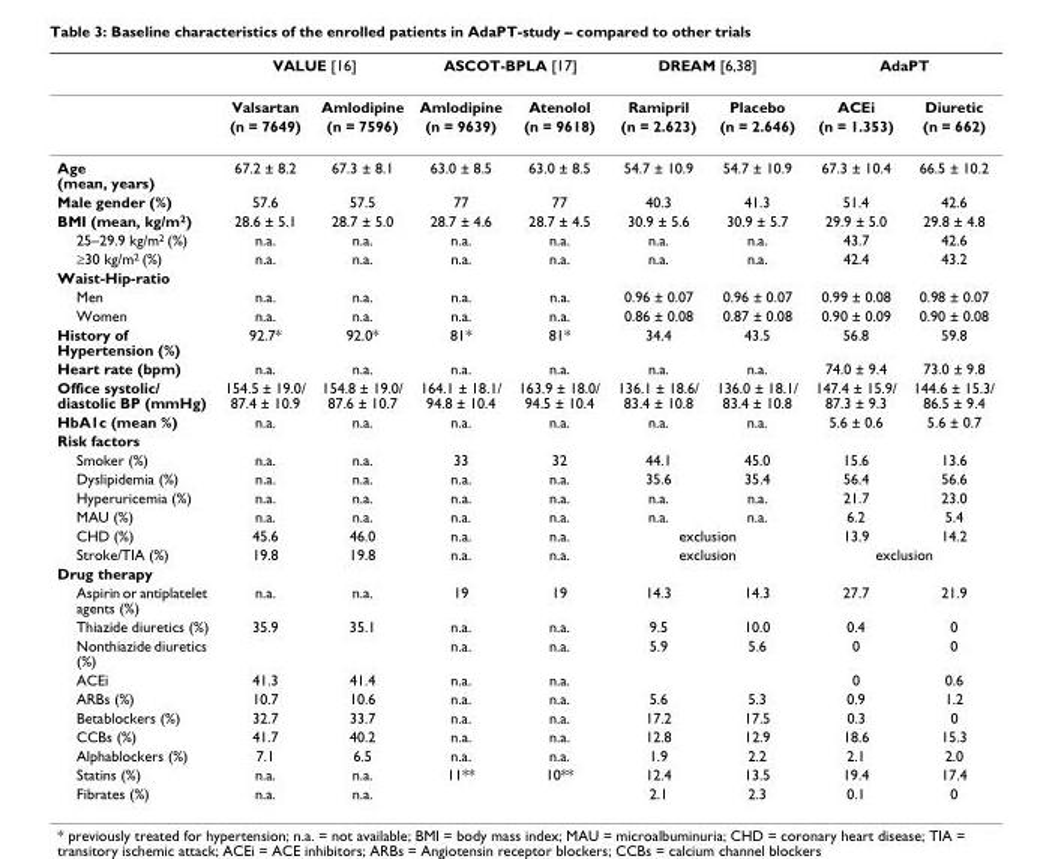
<table><thead><tr><td rowspan="2"></td><td colspan="2">VALUE [16]</td><td colspan="2">ASCOT-BPLA [17]</td><td colspan="2">DREAM [6,38]</td><td colspan="2">AdaPT</td></tr><tr><td>Valsartan</td><td>Amlodipine</td><td>Amlodipine</td><td>Atenolol</td><td>Ramipril</td><td>Placebo</td><td>ACEi</td><td>Diuretic</td></tr></thead><tbody><tr><td></td><td>(n = 7649)</td><td>(n = 7596)</td><td>(n = 9639)</td><td>(n = 9618)</td><td>(n = 2.623)</td><td>(n = 2.646)</td><td>(n = 1.353)</td><td>(n = 662)</td></tr><tr><td>Age (mean, years)</td><td>67.2 ± 8.2</td><td>67.3 ± 8.1</td><td>63.0 ± 8.5</td><td>63.0 ± 8.5</td><td>54.7 ± 10.9</td><td>54.7 ± 10.9</td><td>67.3 ± 10.4</td><td>66.5 ± 10.2</td></tr><tr><td>Male gender (%)</td><td>57.6</td><td>57.5</td><td>77</td><td>77</td><td>40.3</td><td>41.3</td><td>51.4</td><td>42.6</td></tr><tr><td>BMI (mean, kg/m<sup>2</sup>)</td><td>28.6 ± 5.1</td><td>28.7 ± 5.0</td><td>28.7 ± 4.6</td><td>28.7 ± 4.5</td><td>30.9 ± 5.6</td><td>30.9 ± 5.7</td><td>29.9 ± 5.0</td><td>29.8 ± 4.8</td></tr><tr><td>25–29.9 kg/m<sup>2</sup> (%)</td><td>n.a.</td><td>n.a.</td><td>n.a.</td><td>n.a.</td><td>n.a.</td><td>n.a.</td><td>43.7</td><td>42.6</td></tr><tr><td>≥30 kg/m<sup>2</sup> (%)</td><td>n.a.</td><td>n.a.</td><td>n.a.</td><td>n.a.</td><td>n.a.</td><td>n.a.</td><td>42.4</td><td>43.2</td></tr><tr><td colspan="9">Waist-Hip-ratio</td></tr><tr><td>Men</td><td>n.a.</td><td>n.a.</td><td>n.a.</td><td>n.a.</td><td>0.96 ± 0.07</td><td>0.96 ± 0.07</td><td>0.99 ± 0.08</td><td>0.98 ± 0.07</td></tr><tr><td>Women</td><td>n.a.</td><td>n.a.</td><td>n.a.</td><td>n.a.</td><td>0.86 ± 0.08</td><td>0.87 ± 0.08</td><td>0.90 ± 0.09</td><td>0.90 ± 0.08</td></tr><tr><td>History of Hypertension (%)</td><td>92.7*</td><td>92.0*</td><td>81*</td><td>81*</td><td>34.4</td><td>43.5</td><td>56.8</td><td>59.8</td></tr><tr><td>Heart rate (bpm)</td><td>n.a.</td><td>n.a.</td><td>n.a.</td><td>n.a.</td><td>n.a.</td><td>n.a.</td><td>74.0 ± 9.4</td><td>73.0 ± 9.8</td></tr><tr><td>Office systolic/ diastolic BP (mmHg)</td><td>154.5 ± 19.0/ 87.4 ± 10.9</td><td>154.8 ± 19.0/ 87.6 ± 10.7</td><td>164.1 ± 18.1/ 94.8 ± 10.4</td><td>163.9 ± 18.0/ 94.5 ± 10.4</td><td>136.1 ± 18.6/ 83.4 ± 10.8</td><td>136.0 ± 18.1/ 83.4 ± 10.8</td><td>147.4 ± 15.9/ 87.3 ± 9.3</td><td>144.6 ± 15.3/ 86.5 ± 9.4</td></tr><tr><td>HbA1c (mean %)</td><td>n.a.</td><td>n.a.</td><td>n.a.</td><td>n.a.</td><td>n.a.</td><td>n.a.</td><td>5.6 ± 0.6</td><td>5.6 ± 0.7</td></tr><tr><td colspan="9">Risk factors</td></tr><tr><td>Smoker (%)</td><td>n.a.</td><td>n.a.</td><td>33</td><td>32</td><td>44.1</td><td>45.0</td><td>15.6</td><td>13.6</td></tr><tr><td>Dyslipidemia (%)</td><td>n.a.</td><td>n.a.</td><td>n.a.</td><td>n.a.</td><td>35.6</td><td>35.4</td><td>56.4</td><td>56.6</td></tr><tr><td>Hyperuricemia (%)</td><td>n.a.</td><td>n.a.</td><td>n.a.</td><td>n.a.</td><td>n.a.</td><td>n.a.</td><td>21.7</td><td>23.0</td></tr><tr><td>MAU (%)</td><td>n.a.</td><td>n.a.</td><td>n.a.</td><td>n.a.</td><td>n.a.</td><td>n.a.</td><td>6.2</td><td>5.4</td></tr><tr><td>CHD (%)</td><td>45.6</td><td>46.0</td><td>n.a.</td><td>n.a.</td><td colspan="2">exclusion</td><td>13.9</td><td>14.2</td></tr><tr><td>Stroke/TIA (%)</td><td>19.8</td><td>19.8</td><td>n.a.</td><td>n.a.</td><td colspan="2">exclusion</td><td colspan="2">exclusion</td></tr><tr><td colspan="9">Drug therapy</td></tr><tr><td>Aspirin or antiplatelet agents (%)</td><td>n.a.</td><td>n.a.</td><td>19</td><td>19</td><td>14.3</td><td>14.3</td><td>27.7</td><td>21.9</td></tr><tr><td>Thiazide diuretics (%)</td><td>35.9</td><td>35.1</td><td>n.a.</td><td>n.a.</td><td>9.5</td><td>10.0</td><td>0.4</td><td>0</td></tr><tr><td>Nonthiazide diuretics (%)</td><td></td><td></td><td>n.a.</td><td>n.a.</td><td>5.9</td><td>5.6</td><td>0</td><td>0</td></tr><tr><td>ACEi</td><td>41.3</td><td>41.4</td><td>n.a.</td><td>n.a.</td><td></td><td></td><td>0</td><td>0.6</td></tr><tr><td>ARBs (%)</td><td>10.7</td><td>10.6</td><td>n.a.</td><td>n.a.</td><td>5.6</td><td>5.3</td><td>0.9</td><td>1.2</td></tr><tr><td>Betablockers (%)</td><td>32.7</td><td>33.7</td><td>n.a.</td><td>n.a.</td><td>17.2</td><td>17.5</td><td>0.3</td><td>0</td></tr><tr><td>CCBs (%)</td><td>41.7</td><td>40.2</td><td>n.a.</td><td>n.a.</td><td>12.8</td><td>12.9</td><td>18.6</td><td>15.3</td></tr><tr><td>Alphablockers (%)</td><td>7.1</td><td>6.5</td><td>n.a.</td><td>n.a.</td><td>1.9</td><td>2.2</td><td>2.1</td><td>2.0</td></tr><tr><td>Statins (%)</td><td>n.a.</td><td>n.a.</td><td>11**</td><td>10**</td><td>12.4</td><td>13.5</td><td>19.4</td><td>17.4</td></tr><tr><td>Fibrates (%)</td><td>n.a.</td><td>n.a.</td><td></td><td></td><td>2.1</td><td>2.3</td><td>0.1</td><td>0</td></tr></tbody></table>